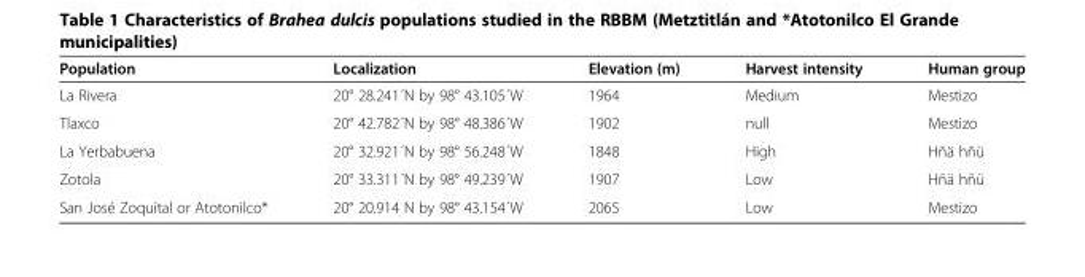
<table><thead><tr><td>Population</td><td>Localization</td><td>Elevation (m)</td><td>Harvest intensity</td><td>Human group</td></tr></thead><tbody><tr><td>La Rivera</td><td>20° 28.241´N by 98° 43.105´W</td><td>1964</td><td>Medium</td><td>Mestizo</td></tr><tr><td>Tlaxco</td><td>20° 42.782´N by 98° 48.386´W</td><td>1902</td><td>null</td><td>Mestizo</td></tr><tr><td>La Yerbabuena</td><td>20° 32.921´N by 98° 56.248´W</td><td>1848</td><td>High</td><td>Hñä hñü</td></tr><tr><td>Zotola</td><td>20° 33.311´N by 98° 49.239´W</td><td>1907</td><td>Low</td><td>Hñä hñü</td></tr><tr><td>San José Zoquital or Atotonilco*</td><td>20° 20.914 N by 98° 43.154´W</td><td>2065</td><td>Low</td><td>Mestizo</td></tr></tbody></table>